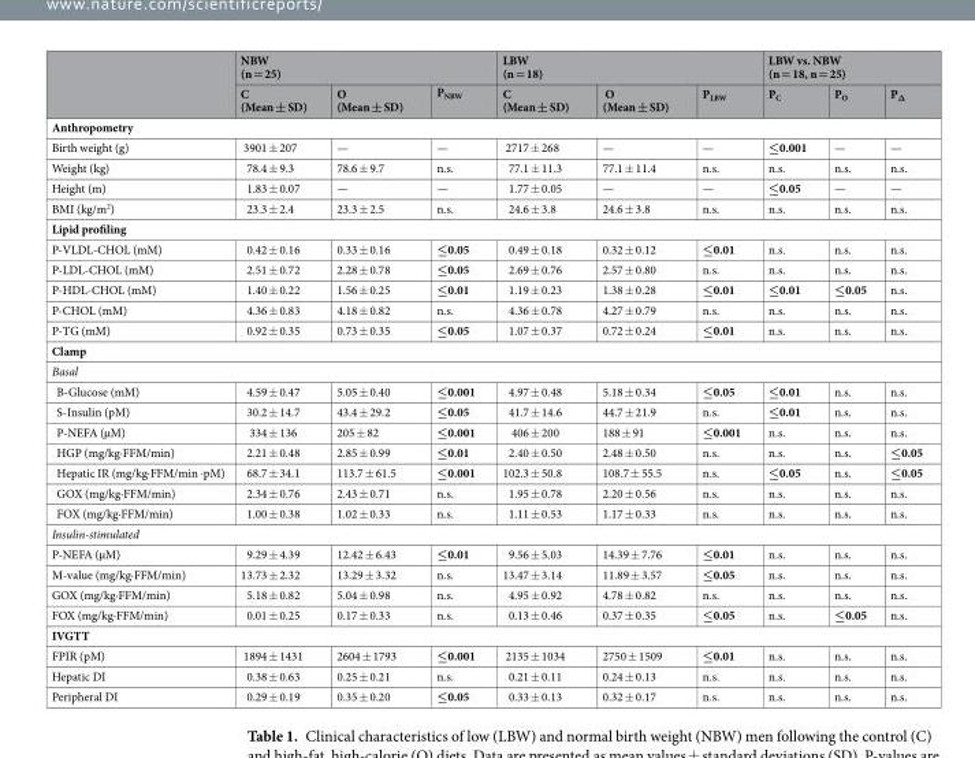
<table><thead><tr><td rowspan="2"></td><td colspan="3">NBW (n = 25)</td><td colspan="3">LBW (n = 18)</td><td colspan="3">LBW vs. NBW (n = 18, n = 25)</td></tr><tr><td>C (Mean ± SD)</td><td>O (Mean ± SD)</td><td>P<sub>NBW</sub></td><td>C (Mean ± SD)</td><td>O (Mean ± SD)</td><td>P<sub>LBW</sub></td><td>P<sub>C</sub></td><td>P<sub>O</sub></td><td>P<sub>Δ</sub></td></tr></thead><tbody><tr><td colspan="10">Anthropometry</td></tr><tr><td>Birth weight (g)</td><td>3901 ± 207</td><td>—</td><td>—</td><td>2717 ± 268</td><td>—</td><td>—</td><td>≤0.001</td><td>—</td><td>—</td></tr><tr><td>Weight (kg)</td><td>78.4 ± 9.3</td><td>78.6 ± 9.7</td><td>n.s.</td><td>77.1 ± 11.3</td><td>77.1 ± 11.4</td><td>n.s.</td><td>n.s.</td><td>n.s.</td><td>n.s.</td></tr><tr><td>Height (m)</td><td>1.83 ± 0.07</td><td>—</td><td>—</td><td>1.77 ± 0.05</td><td>—</td><td>—</td><td>≤0.05</td><td>—</td><td>—</td></tr><tr><td>BMI (kg/m<sup>2</sup>)</td><td>23.3 ± 2.4</td><td>23.3 ± 2.5</td><td>n.s.</td><td>24.6 ± 3.8</td><td>24.6 ± 3.8</td><td>n.s.</td><td>n.s.</td><td>n.s.</td><td>n.s.</td></tr><tr><td colspan="10">Lipid profiling</td></tr><tr><td>P-VLDL-CHOL (mM)</td><td>0.42 ± 0.16</td><td>0.33 ± 0.16</td><td>≤0.05</td><td>0.49 ± 0.18</td><td>0.32 ± 0.12</td><td>≤0.01</td><td>n.s.</td><td>n.s.</td><td>n.s.</td></tr><tr><td>P-LDL-CHOL (mM)</td><td>2.51 ± 0.72</td><td>2.28 ± 0.78</td><td>≤0.05</td><td>2.69 ± 0.76</td><td>2.57 ± 0.80</td><td>n.s.</td><td>n.s.</td><td>n.s.</td><td>n.s.</td></tr><tr><td>P-HDL-CHOL (mM)</td><td>1.40 ± 0.22</td><td>1.56 ± 0.25</td><td>≤0.01</td><td>1.19 ± 0.23</td><td>1.38 ± 0.28</td><td>≤0.01</td><td>≤0.01</td><td>≤0.05</td><td>n.s.</td></tr><tr><td>P-CHOL (mM)</td><td>4.36 ± 0.83</td><td>4.18 ± 0.82</td><td>n.s.</td><td>4.36 ± 0.78</td><td>4.27 ± 0.79</td><td>n.s.</td><td>n.s.</td><td>n.s.</td><td>n.s.</td></tr><tr><td>P-TG (mM)</td><td>0.92 ± 0.35</td><td>0.73 ± 0.35</td><td>≤0.05</td><td>1.07 ± 0.37</td><td>0.72 ± 0.24</td><td>≤0.01</td><td>n.s.</td><td>n.s.</td><td>n.s.</td></tr><tr><td colspan="10">Clamp</td></tr><tr><td colspan="10">Basal</td></tr><tr><td>B-Glucose (mM)</td><td>4.59 ± 0.47</td><td>5.05 ± 0.40</td><td>≤0.001</td><td>4.97 ± 0.48</td><td>5.18 ± 0.34</td><td>≤0.05</td><td>≤0.01</td><td>n.s.</td><td>n.s.</td></tr><tr><td>S-Insulin (pM)</td><td>30.2 ± 14.7</td><td>43.4 ± 29.2</td><td>≤0.05</td><td>41.7 ± 14.6</td><td>44.7 ± 21.9</td><td>n.s.</td><td>≤0.01</td><td>n.s.</td><td>n.s.</td></tr><tr><td>P-NEFA (µM)</td><td>334 ± 136</td><td>205 ± 82</td><td>≤0.001</td><td>406 ± 200</td><td>188 ± 91</td><td>≤0.001</td><td>n.s.</td><td>n.s.</td><td>n.s.</td></tr><tr><td>HGP (mg/kg·FFM/min)</td><td>2.21 ± 0.48</td><td>2.85 ± 0.99</td><td>≤0.01</td><td>2.40 ± 0.50</td><td>2.48 ± 0.50</td><td>n.s.</td><td>n.s.</td><td>n.s.</td><td>≤0.05</td></tr><tr><td>Hepatic IR (mg/kg·FFM/min ·pM)</td><td>68.7 ± 34.1</td><td>113.7 ± 61.5</td><td>≤0.001</td><td>102.3 ± 50.8</td><td>108.7 ± 55.5</td><td>n.s.</td><td>≤0.05</td><td>n.s.</td><td>≤0.05</td></tr><tr><td>GOX (mg/kg·FFM/min)</td><td>2.34 ± 0.76</td><td>2.43 ± 0.71</td><td>n.s.</td><td>1.95 ± 0.78</td><td>2.20 ± 0.56</td><td>n.s.</td><td>n.s.</td><td>n.s.</td><td>n.s.</td></tr><tr><td>FOX (mg/kg·FFM/min)</td><td>1.00 ± 0.38</td><td>1.02 ± 0.33</td><td>n.s.</td><td>1.11 ± 0.53</td><td>1.17 ± 0.33</td><td>n.s.</td><td>n.s.</td><td>n.s.</td><td>n.s.</td></tr><tr><td colspan="10">Insulin-stimulated</td></tr><tr><td>P-NEFA (µM)</td><td>9.29 ± 4.39</td><td>12.42 ± 6.43</td><td>≤0.01</td><td>9.56 ± 5.03</td><td>14.39 ± 7.76</td><td>≤0.01</td><td>n.s.</td><td>n.s.</td><td>n.s.</td></tr><tr><td>M-value (mg/kg·FFM/min)</td><td>13.73 ± 2.32</td><td>13.29 ± 3.32</td><td>n.s.</td><td>13.47 ± 3.14</td><td>11.89 ± 3.57</td><td>≤0.05</td><td>n.s.</td><td>n.s.</td><td>n.s.</td></tr><tr><td>GOX (mg/kg·FFM/min)</td><td>5.18 ± 0.82</td><td>5.04 ± 0.98</td><td>n.s.</td><td>4.95 ± 0.92</td><td>4.78 ± 0.82</td><td>n.s.</td><td>n.s.</td><td>n.s.</td><td>n.s.</td></tr><tr><td>FOX (mg/kg·FFM/min)</td><td>0.01 ± 0.25</td><td>0.17 ± 0.33</td><td>n.s.</td><td>0.13 ± 0.46</td><td>0.37 ± 0.35</td><td>≤0.05</td><td>n.s.</td><td>≤0.05</td><td>n.s.</td></tr><tr><td colspan="10">IVGTT</td></tr><tr><td>FPIR (pM)</td><td>1894 ± 1431</td><td>2604 ± 1793</td><td>≤0.001</td><td>2135 ± 1034</td><td>2750 ± 1509</td><td>≤0.01</td><td>n.s.</td><td>n.s.</td><td>n.s.</td></tr><tr><td>Hepatic DI</td><td>0.38 ± 0.63</td><td>0.25 ± 0.21</td><td>n.s.</td><td>0.21 ± 0.11</td><td>0.24 ± 0.13</td><td>n.s.</td><td>n.s.</td><td>n.s.</td><td>n.s.</td></tr><tr><td>Peripheral DI</td><td>0.29 ± 0.19</td><td>0.35 ± 0.20</td><td>≤0.05</td><td>0.33 ± 0.13</td><td>0.32 ± 0.17</td><td>n.s.</td><td>n.s.</td><td>n.s.</td><td>n.s.</td></tr></tbody></table>